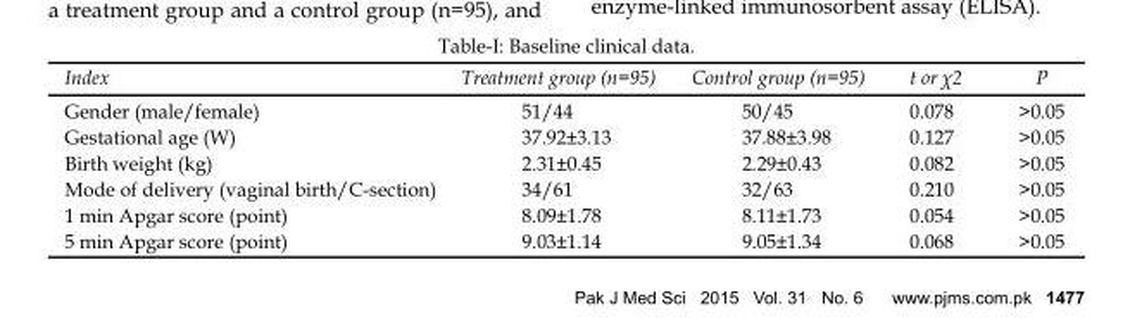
<table><thead><tr><td>Index</td><td>Treatment group (n=95)</td><td>Control group (n=95)</td><td>t or χ<sup>2</sup></td><td>P</td></tr></thead><tbody><tr><td>Gender (male/female)</td><td>51/44</td><td>50/45</td><td>0.078</td><td>&gt;0.05</td></tr><tr><td>Gestational age (W)</td><td>37.92±3.13</td><td>37.88±3.98</td><td>0.127</td><td>&gt;0.05</td></tr><tr><td>Birth weight (kg)</td><td>2.31±0.45</td><td>2.29±0.43</td><td>0.082</td><td>&gt;0.05</td></tr><tr><td>Mode of delivery (vaginal birth/C-section)</td><td>34/61</td><td>32/63</td><td>0.210</td><td>&gt;0.05</td></tr><tr><td>1 min Apgar score (point)</td><td>8.09±1.78</td><td>8.11±1.73</td><td>0.054</td><td>&gt;0.05</td></tr><tr><td>5 min Apgar score (point)</td><td>9.03±1.14</td><td>9.05±1.34</td><td>0.068</td><td>&gt;0.05</td></tr></tbody></table>